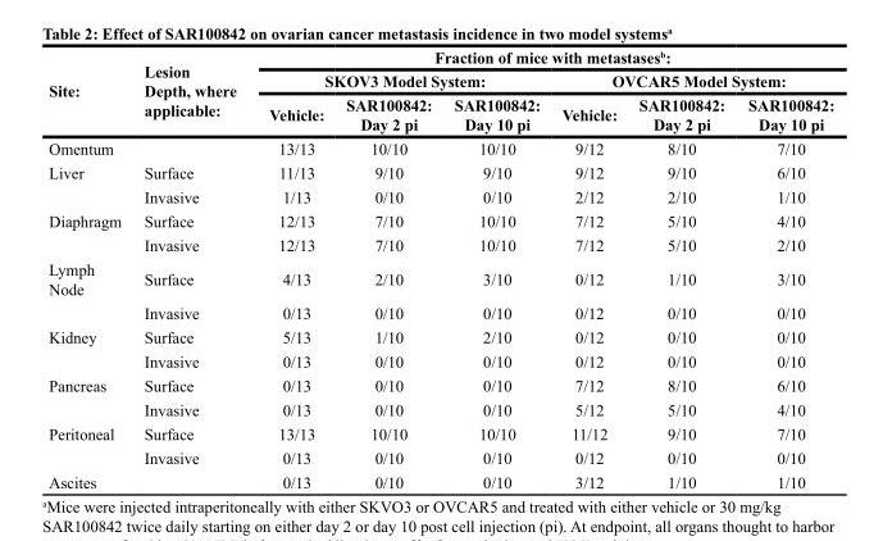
<table><thead><tr><td rowspan="3">Site:</td><td rowspan="3">Lesion Depth, where applicable:</td><td colspan="6">Fraction of mice with metastases<sup>b</sup>:</td></tr><tr><td colspan="3">SKOV3 Model System:</td><td colspan="3">OVCAR5 Model System:</td></tr><tr><td>Vehicle:</td><td>SAR100842: Day 2 pi</td><td>SAR100842: Day 10 pi</td><td>Vehicle:</td><td>SAR100842: Day 2 pi</td><td>SAR100842: Day 10 pi</td></tr></thead><tbody><tr><td>Omentum</td><td></td><td>13/13</td><td>10/10</td><td>10/10</td><td>9/12</td><td>8/10</td><td>7/10</td></tr><tr><td rowspan="2">Liver</td><td>Surface</td><td>11/13</td><td>9/10</td><td>9/10</td><td>9/12</td><td>9/10</td><td>6/10</td></tr><tr><td>Invasive</td><td>1/13</td><td>0/10</td><td>0/10</td><td>2/12</td><td>2/10</td><td>1/10</td></tr><tr><td rowspan="2">Diaphragm</td><td>Surface</td><td>12/13</td><td>7/10</td><td>10/10</td><td>7/12</td><td>5/10</td><td>4/10</td></tr><tr><td>Invasive</td><td>12/13</td><td>7/10</td><td>10/10</td><td>7/12</td><td>5/10</td><td>2/10</td></tr><tr><td rowspan="2">Lymph Node</td><td>Surface</td><td>4/13</td><td>2/10</td><td>3/10</td><td>0/12</td><td>1/10</td><td>3/10</td></tr><tr><td>Invasive</td><td>0/13</td><td>0/10</td><td>0/10</td><td>0/12</td><td>0/10</td><td>0/10</td></tr><tr><td rowspan="2">Kidney</td><td>Surface</td><td>5/13</td><td>1/10</td><td>2/10</td><td>0/12</td><td>0/10</td><td>0/10</td></tr><tr><td>Invasive</td><td>0/13</td><td>0/10</td><td>0/10</td><td>0/12</td><td>0/10</td><td>0/10</td></tr><tr><td rowspan="2">Pancreas</td><td>Surface</td><td>0/13</td><td>0/10</td><td>0/10</td><td>7/12</td><td>8/10</td><td>6/10</td></tr><tr><td>Invasive</td><td>0/13</td><td>0/10</td><td>0/10</td><td>5/12</td><td>5/10</td><td>4/10</td></tr><tr><td rowspan="2">Peritoneal</td><td>Surface</td><td>13/13</td><td>10/10</td><td>10/10</td><td>11/12</td><td>9/10</td><td>7/10</td></tr><tr><td>Invasive</td><td>0/13</td><td>0/10</td><td>0/10</td><td>0/12</td><td>0/10</td><td>0/10</td></tr><tr><td>Ascites</td><td></td><td>0/13</td><td>0/10</td><td>0/10</td><td>3/12</td><td>1/10</td><td>1/10</td></tr></tbody></table>